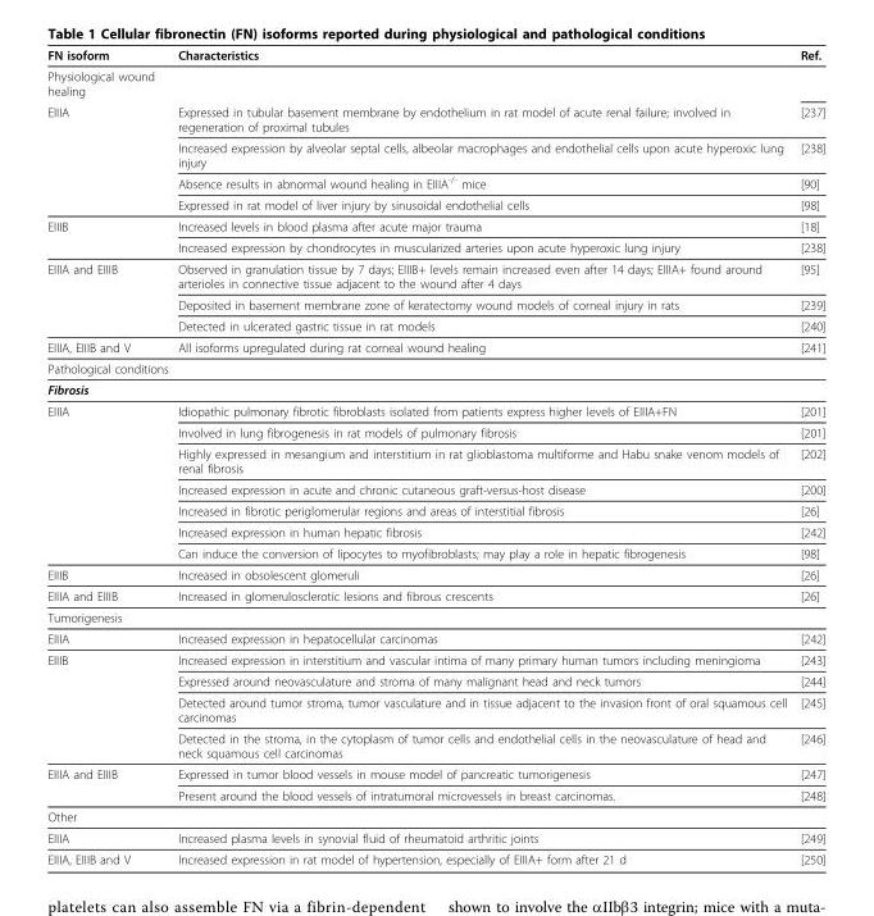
<table><thead><tr><td>FN isoform</td><td>Characteristics</td><td>Ref.</td></tr></thead><tbody><tr><td colspan="3">Physiological wound healing</td></tr><tr><td rowspan="4">EIIIA</td><td>Expressed in tubular basement membrane by endothelium in rat model of acute renal failure; involved in regeneration of proximal tubules</td><td>[237]</td></tr><tr><td>Increased expression by alveolar septal cells, albeolar macrophages and endothelial cells upon acute hyperoxic lung injury</td><td>[238]</td></tr><tr><td>Absence results in abnormal wound healing in EIIIA<sup>-/-</sup> mice</td><td>[90]</td></tr><tr><td>Expressed in rat model of liver injury by sinusoidal endothelial cells</td><td>[98]</td></tr><tr><td rowspan="2">EIIIB</td><td>Increased levels in blood plasma after acute major trauma</td><td>[18]</td></tr><tr><td>Increased expression by chondrocytes in muscularized arteries upon acute hyperoxic lung injury</td><td>[238]</td></tr><tr><td rowspan="3">EIIIA and EIIIB</td><td>Observed in granulation tissue by 7 days; EIIIB+ levels remain increased even after 14 days; EIIIA+ found around arterioles in connective tissue adjacent to the wound after 4 days</td><td>[95]</td></tr><tr><td>Deposited in basement membrane zone of keratectomy wound models of corneal injury in rats</td><td>[239]</td></tr><tr><td>Detected in ulcerated gastric tissue in rat models</td><td>[240]</td></tr><tr><td>EIIIA, EIIIB and V</td><td>All isoforms upregulated during rat corneal wound healing</td><td>[241]</td></tr><tr><td colspan="3">Pathological conditions</td></tr><tr><td colspan="3">Fibrosis</td></tr><tr><td rowspan="7">EIIIA</td><td>Idiopathic pulmonary fibrotic fibroblasts isolated from patients express higher levels of EIIIA+FN</td><td>[201]</td></tr><tr><td>Involved in lung fibrogenesis in rat models of pulmonary fibrosis</td><td>[201]</td></tr><tr><td>Highly expressed in mesangium and interstitium in rat glioblastoma multiforme and Habu snake venom models of renal fibrosis</td><td>[202]</td></tr><tr><td>Increased expression in acute and chronic cutaneous graft-versus-host disease</td><td>[200]</td></tr><tr><td>Increased in fibrotic periglomerular regions and areas of interstitial fibrosis</td><td>[26]</td></tr><tr><td>Increased expression in human hepatic fibrosis</td><td>[242]</td></tr><tr><td>Can induce the conversion of lipocytes to myofibroblasts; may play a role in hepatic fibrogenesis</td><td>[98]</td></tr><tr><td>EIIIB</td><td>Increased in obsolescent glomeruli</td><td>[26]</td></tr><tr><td>EIIIA and EIIIB</td><td>Increased in glomerulosclerotic lesions and fibrous crescents</td><td>[26]</td></tr><tr><td colspan="3">Tumorigenesis</td></tr><tr><td>EIIIA</td><td>Increased expression in hepatocellular carcinomas</td><td>[242]</td></tr><tr><td rowspan="4">EIIIB</td><td>Increased expression in interstitium and vascular intima of many primary human tumors including meningioma</td><td>[243]</td></tr><tr><td>Expressed around neovasculature and stroma of many malignant head and neck tumors</td><td>[244]</td></tr><tr><td>Detected around tumor stroma, tumor vasculature and in tissue adjacent to the invasion front of oral squamous cell carcinomas</td><td>[245]</td></tr><tr><td>Detected in the stroma, in the cytoplasm of tumor cells and endothelial cells in the neovasculature of head and neck squamous cell carcinomas</td><td>[246]</td></tr><tr><td rowspan="2">EIIIA and EIIIB</td><td>Expressed in tumor blood vessels in mouse model of pancreatic tumorigenesis</td><td>[247]</td></tr><tr><td>Present around the blood vessels of intratumoral microvessels in breast carcinomas.</td><td>[248]</td></tr><tr><td colspan="3">Other</td></tr><tr><td>EIIIA</td><td>Increased plasma levels in synovial fluid of rheumatoid arthritic joints</td><td>[249]</td></tr><tr><td>EIIIA, EIIIB and V</td><td>Increased expression in rat model of hypertension, especially of EIIIA+ form after 21 d</td><td>[250]</td></tr></tbody></table>